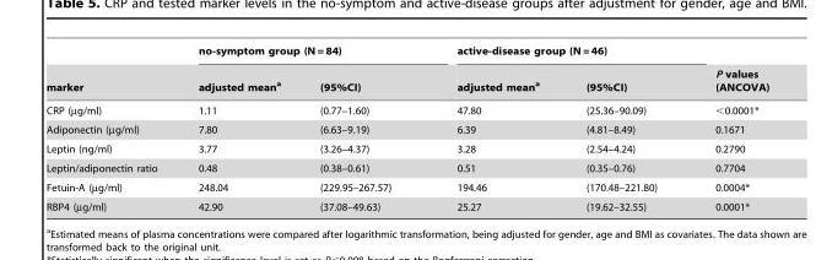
<table><thead><tr><td rowspan="2">marker</td><td colspan="2">no-symptom group (N = 84)</td><td colspan="2">active-disease group (N = 46)</td><td rowspan="2">P values (ANCOVA)</td></tr><tr><td>adjusted mean<sup>a</sup></td><td>(95%CI)</td><td>adjusted mean<sup>a</sup></td><td>(95%CI)</td></tr></thead><tbody><tr><td>CRP (µg/ml)</td><td>1.11</td><td>(0.77–1.60)</td><td>47.80</td><td>(25.36–90.09)</td><td>&lt;0.0001*</td></tr><tr><td>Adiponectin (µg/ml)</td><td>7.80</td><td>(6.63–9.19)</td><td>6.39</td><td>(4.81–8.49)</td><td>0.1671</td></tr><tr><td>Leptin (ng/ml)</td><td>3.77</td><td>(3.26–4.37)</td><td>3.28</td><td>(2.54–4.24)</td><td>0.2790</td></tr><tr><td>Leptin/adiponectin ratio</td><td>0.48</td><td>(0.38–0.61)</td><td>0.51</td><td>(0.35–0.76)</td><td>0.7704</td></tr><tr><td>Fetuin-A (µg/ml)</td><td>248.04</td><td>(229.95–267.57)</td><td>194.46</td><td>(170.48–221.80)</td><td>0.0004*</td></tr><tr><td>RBP4 (µg/ml)</td><td>42.90</td><td>(37.08–49.63)</td><td>25.27</td><td>(19.62–32.55)</td><td>0.0001*</td></tr></tbody></table>